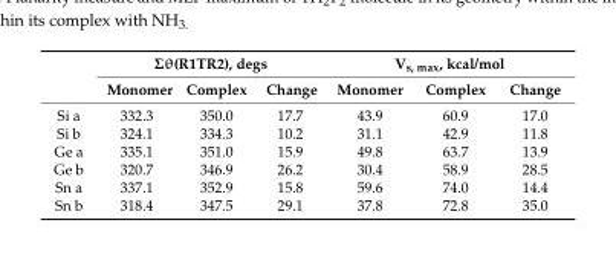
<table><thead><tr><td rowspan="2"></td><td colspan="3">Σθ(R1TR2), degs</td><td colspan="3">V<sub>s, max</sub>, kcal/mol</td></tr><tr><td>Monomer</td><td>Complex</td><td>Change</td><td>Monomer</td><td>Complex</td><td>Change</td></tr></thead><tbody><tr><td>Si a</td><td>332.3</td><td>350.0</td><td>17.7</td><td>43.9</td><td>60.9</td><td>17.0</td></tr><tr><td>Si b</td><td>324.1</td><td>334.3</td><td>10.2</td><td>31.1</td><td>42.9</td><td>11.8</td></tr><tr><td>Ge a</td><td>335.1</td><td>351.0</td><td>15.9</td><td>49.8</td><td>63.7</td><td>13.9</td></tr><tr><td>Ge b</td><td>320.7</td><td>346.9</td><td>26.2</td><td>30.4</td><td>58.9</td><td>28.5</td></tr><tr><td>Sn a</td><td>337.1</td><td>352.9</td><td>15.8</td><td>59.6</td><td>74.0</td><td>14.4</td></tr><tr><td>Sn b</td><td>318.4</td><td>347.5</td><td>29.1</td><td>37.8</td><td>72.8</td><td>35.0</td></tr></tbody></table>